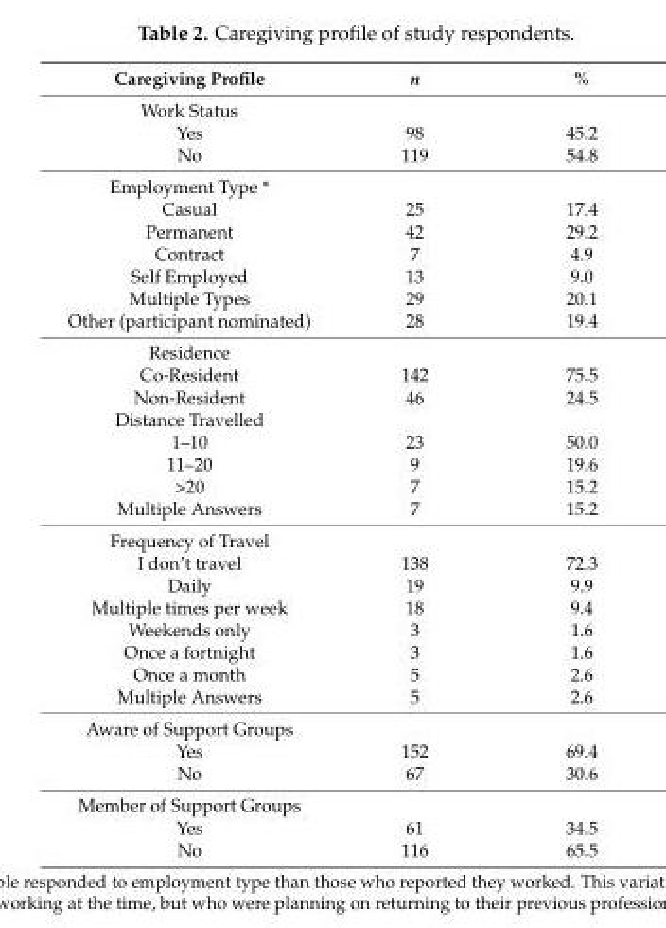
<table><thead><tr><td>Caregiving Profile</td><td>n</td><td>%</td></tr></thead><tbody><tr><td colspan="3">Work Status</td></tr><tr><td>Yes</td><td>98</td><td>45.2</td></tr><tr><td>No</td><td>119</td><td>54.8</td></tr><tr><td colspan="3">Employment Type *</td></tr><tr><td>Casual</td><td>25</td><td>17.4</td></tr><tr><td>Permanent</td><td>42</td><td>29.2</td></tr><tr><td>Contract</td><td>7</td><td>4.9</td></tr><tr><td>Self Employed</td><td>13</td><td>9.0</td></tr><tr><td>Multiple Types</td><td>29</td><td>20.1</td></tr><tr><td>Other (participant nominated)</td><td>28</td><td>19.4</td></tr><tr><td colspan="3">Residence</td></tr><tr><td>Co-Resident</td><td>142</td><td>75.5</td></tr><tr><td>Non-Resident</td><td>46</td><td>24.5</td></tr><tr><td colspan="3">Distance Travelled</td></tr><tr><td>1–10</td><td>23</td><td>50.0</td></tr><tr><td>11–20</td><td>9</td><td>19.6</td></tr><tr><td>&gt;20</td><td>7</td><td>15.2</td></tr><tr><td>Multiple Answers</td><td>7</td><td>15.2</td></tr><tr><td colspan="3">Frequency of Travel</td></tr><tr><td>I don’t travel</td><td>138</td><td>72.3</td></tr><tr><td>Daily</td><td>19</td><td>9.9</td></tr><tr><td>Multiple times per week</td><td>18</td><td>9.4</td></tr><tr><td>Weekends only</td><td>3</td><td>1.6</td></tr><tr><td>Once a fortnight</td><td>3</td><td>1.6</td></tr><tr><td>Once a month</td><td>5</td><td>2.6</td></tr><tr><td>Multiple Answers</td><td>5</td><td>2.6</td></tr><tr><td colspan="3">Aware of Support Groups</td></tr><tr><td>Yes</td><td>152</td><td>69.4</td></tr><tr><td>No</td><td>67</td><td>30.6</td></tr><tr><td colspan="3">Member of Support Groups</td></tr><tr><td>Yes</td><td>61</td><td>34.5</td></tr><tr><td>No</td><td>116</td><td>65.5</td></tr></tbody></table>